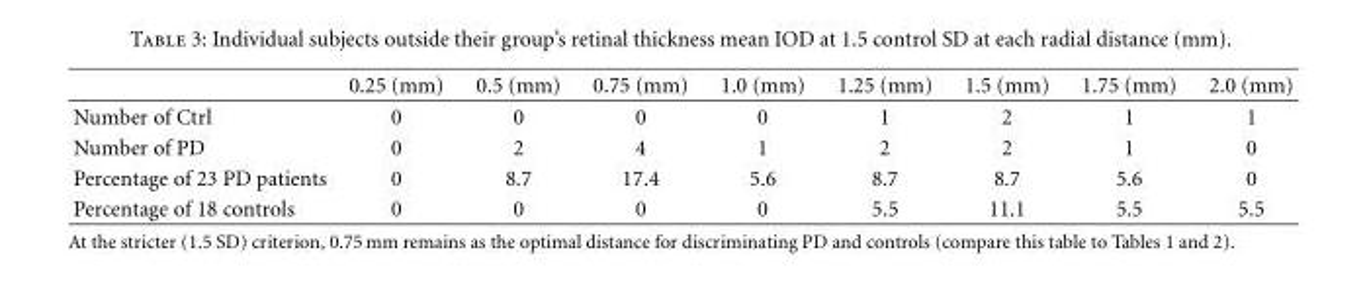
<table><thead><tr><td></td><td>0.25 (mm)</td><td>0.5 (mm)</td><td>0.75 (mm)</td><td>1.0 (mm)</td><td>1.25 (mm)</td><td>1.5 (mm)</td><td>1.75 (mm)</td><td>2.0 (mm)</td></tr></thead><tbody><tr><td>Number of Ctrl</td><td>0</td><td>0</td><td>0</td><td>0</td><td>1</td><td>2</td><td>1</td><td>1</td></tr><tr><td>Number of PD</td><td>0</td><td>2</td><td>4</td><td>1</td><td>2</td><td>2</td><td>1</td><td>0</td></tr><tr><td>Percentage of 23 PD patients</td><td>0</td><td>8.7</td><td>17.4</td><td>5.6</td><td>8.7</td><td>8.7</td><td>5.6</td><td>0</td></tr><tr><td>Percentage of 18 controls</td><td>0</td><td>0</td><td>0</td><td>0</td><td>5.5</td><td>11.1</td><td>5.5</td><td>5.5</td></tr></tbody></table>